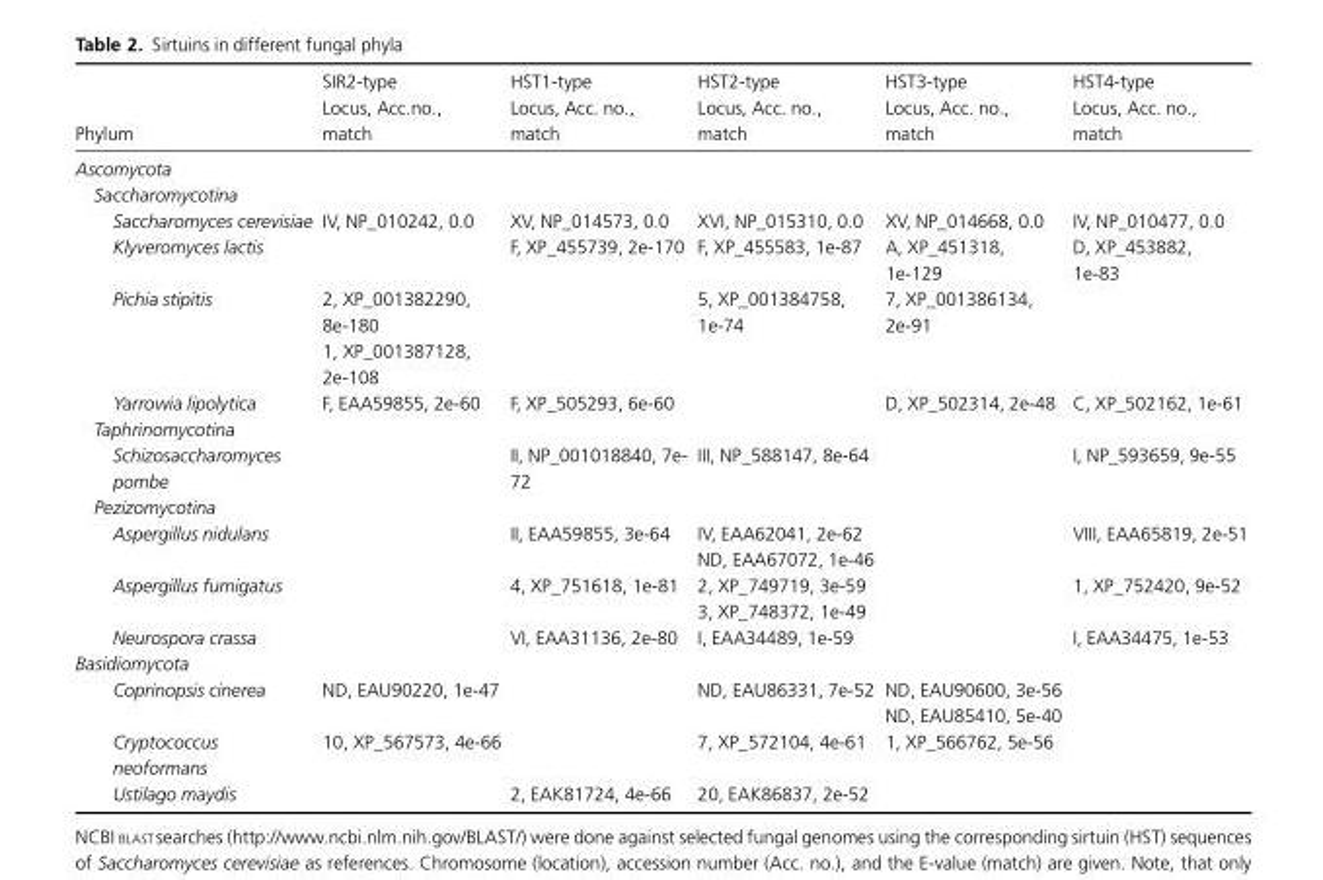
<table><thead><tr><td>Phylum</td><td>SIR2-type Locus, Acc.no., match</td><td>HST1-type Locus, Acc. no., match</td><td>HST2-type Locus, Acc. no., match</td><td>HST3-type Locus, Acc. no., match</td><td>HST4-type Locus, Acc. no., match</td></tr></thead><tbody><tr><td colspan="6">Ascomycota</td></tr><tr><td colspan="6">Saccharomycotina</td></tr><tr><td>Saccharomyces cerevisiae</td><td>IV, NP_010242, 0.0</td><td>XV, NP_014573, 0.0</td><td>XVI, NP_015310, 0.0</td><td>XV, NP_014668, 0.0</td><td>IV, NP_010477, 0.0</td></tr><tr><td>Klyveromyces lactis</td><td></td><td>F, XP_455739, 2e-170</td><td>F, XP_455583, 1e-87</td><td>A, XP_451318, 1e-129</td><td>D, XP_453882, 1e-83</td></tr><tr><td rowspan="2">Pichia stipitis</td><td>2, XP_001382290, 8e-180</td><td></td><td>5, XP_001384758, 1e-74</td><td>7, XP_001386134, 2e-91</td><td></td></tr><tr><td>1, XP_001387128, 2e-108</td><td></td><td></td><td></td><td></td></tr><tr><td>Yarrowia lipolytica</td><td>F, EAA59855, 2e-60</td><td>F, XP_505293, 6e-60</td><td></td><td>D, XP_502314, 2e-48</td><td>C, XP_502162, 1e-61</td></tr><tr><td colspan="6">Taphrinomycotina</td></tr><tr><td>Schizosaccharomyces pombe</td><td></td><td>II, NP_001018840, 7e- 72</td><td>III, NP_588147, 8e-64</td><td></td><td>I, NP_593659, 9e-55</td></tr><tr><td colspan="6">Pezizomycotina</td></tr><tr><td rowspan="2">Aspergillus nidulans</td><td></td><td>II, EAA59855, 3e-64</td><td>IV, EAA62041, 2e-62</td><td></td><td>VIII, EAA65819, 2e-51</td></tr><tr><td></td><td></td><td>ND, EAA67072, 1e-46</td><td></td><td></td></tr><tr><td rowspan="2">Aspergillus fumigatus</td><td></td><td>4, XP_751618, 1e-81</td><td>2, XP_749719, 3e-59</td><td></td><td>1, XP_752420, 9e-52</td></tr><tr><td></td><td></td><td>3, XP_748372, 1e-49</td><td></td><td></td></tr><tr><td>Neurospora crassa</td><td></td><td>VI, EAA31136, 2e-80</td><td>I, EAA34489, 1e-59</td><td></td><td>I, EAA34475, 1e-53</td></tr><tr><td colspan="6">Basidiomycota</td></tr><tr><td rowspan="2">Coprinopsis cinerea</td><td>ND, EAU90220, 1e-47</td><td></td><td>ND, EAU86331, 7e-52</td><td>ND, EAU90600, 3e-56</td><td></td></tr><tr><td></td><td></td><td></td><td>ND, EAU85410, 5e-40</td><td></td></tr><tr><td>Cryptococcus neoformans</td><td>10, XP_567573, 4e-66</td><td></td><td>7, XP_572104, 4e-61</td><td>1, XP_566762, 5e-56</td><td></td></tr><tr><td>Ustilago maydis</td><td></td><td>2, EAK81724, 4e-66</td><td>20, EAK86837, 2e-52</td><td></td><td></td></tr></tbody></table>